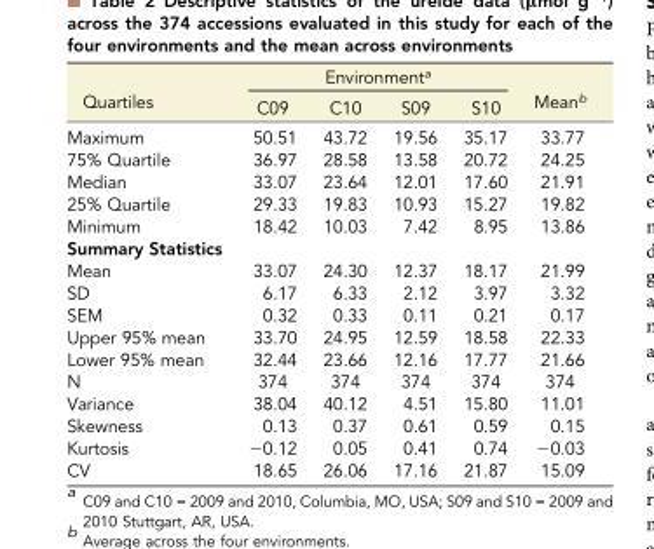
<table><thead><tr><td rowspan="2">Quartiles</td><td colspan="4">Environment<sup>a</sup></td><td rowspan="2">Mean<sup>b</sup></td></tr><tr><td>C09</td><td>C10</td><td>S09</td><td>S10</td></tr></thead><tbody><tr><td>Maximum</td><td>50.51</td><td>43.72</td><td>19.56</td><td>35.17</td><td>33.77</td></tr><tr><td>75% Quartile</td><td>36.97</td><td>28.58</td><td>13.58</td><td>20.72</td><td>24.25</td></tr><tr><td>Median</td><td>33.07</td><td>23.64</td><td>12.01</td><td>17.60</td><td>21.91</td></tr><tr><td>25% Quartile</td><td>29.33</td><td>19.83</td><td>10.93</td><td>15.27</td><td>19.82</td></tr><tr><td>Minimum</td><td>18.42</td><td>10.03</td><td>7.42</td><td>8.95</td><td>13.86</td></tr><tr><td colspan="6">Summary Statistics</td></tr><tr><td>Mean</td><td>33.07</td><td>24.30</td><td>12.37</td><td>18.17</td><td>21.99</td></tr><tr><td>SD</td><td>6.17</td><td>6.33</td><td>2.12</td><td>3.97</td><td>3.32</td></tr><tr><td>SEM</td><td>0.32</td><td>0.33</td><td>0.11</td><td>0.21</td><td>0.17</td></tr><tr><td>Upper 95% mean</td><td>33.70</td><td>24.95</td><td>12.59</td><td>18.58</td><td>22.33</td></tr><tr><td>Lower 95% mean</td><td>32.44</td><td>23.66</td><td>12.16</td><td>17.77</td><td>21.66</td></tr><tr><td>N</td><td>374</td><td>374</td><td>374</td><td>374</td><td>374</td></tr><tr><td>Variance</td><td>38.04</td><td>40.12</td><td>4.51</td><td>15.80</td><td>11.01</td></tr><tr><td>Skewness</td><td>0.13</td><td>0.37</td><td>0.61</td><td>0.59</td><td>0.15</td></tr><tr><td>Kurtosis</td><td>−0.12</td><td>0.05</td><td>0.41</td><td>0.74</td><td>−0.03</td></tr><tr><td>CV</td><td>18.65</td><td>26.06</td><td>17.16</td><td>21.87</td><td>15.09</td></tr></tbody></table>